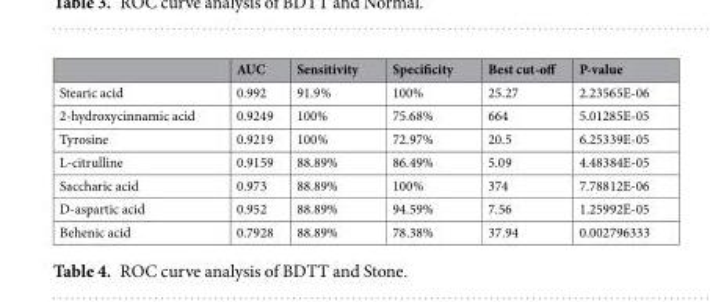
<table><thead><tr><td></td><td>AUC</td><td>Sensitivity</td><td>Specificity</td><td>Best cut-off</td><td>P-value</td></tr></thead><tbody><tr><td>Stearic acid</td><td>0.992</td><td>91.9%</td><td>100%</td><td>25.27</td><td>2.23565E-06</td></tr><tr><td>2-hydroxycinnamic acid</td><td>0.9249</td><td>100%</td><td>75.68%</td><td>664</td><td>5.01285E-05</td></tr><tr><td>Tyrosine</td><td>0.9219</td><td>100%</td><td>72.97%</td><td>20.5</td><td>6.25339E-05</td></tr><tr><td>L-citrulline</td><td>0.9159</td><td>88.89%</td><td>86.49%</td><td>5.09</td><td>4.48384E-05</td></tr><tr><td>Saccharic acid</td><td>0.973</td><td>88.89%</td><td>100%</td><td>374</td><td>7.78812E-06</td></tr><tr><td>D-aspartic acid</td><td>0.952</td><td>88.89%</td><td>94.59%</td><td>7.56</td><td>1.25992E-05</td></tr><tr><td>Behenic acid</td><td>0.7928</td><td>88.89%</td><td>78.38%</td><td>37.94</td><td>0.002796333</td></tr></tbody></table>